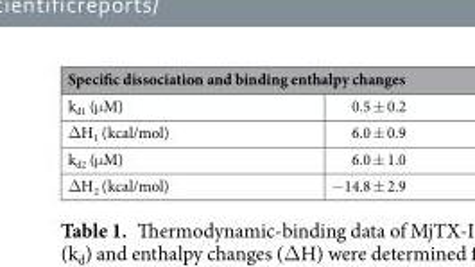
<table><thead><tr><td colspan="2">Specific dissociation and binding enthalpy changes</td></tr><tr><td>k<sub>d1</sub> (μM)</td><td>0.5 ± 0.2</td></tr></thead><tbody><tr><td>ΔH<sub>1</sub> (kcal/mol)</td><td>6.0 ± 0.9</td></tr><tr><td>k<sub>d2</sub> (μM)</td><td>6.0 ± 1.0</td></tr><tr><td>ΔH<sub>2</sub> (kcal/mol)</td><td>−14.8 ± 2.9</td></tr></tbody></table>